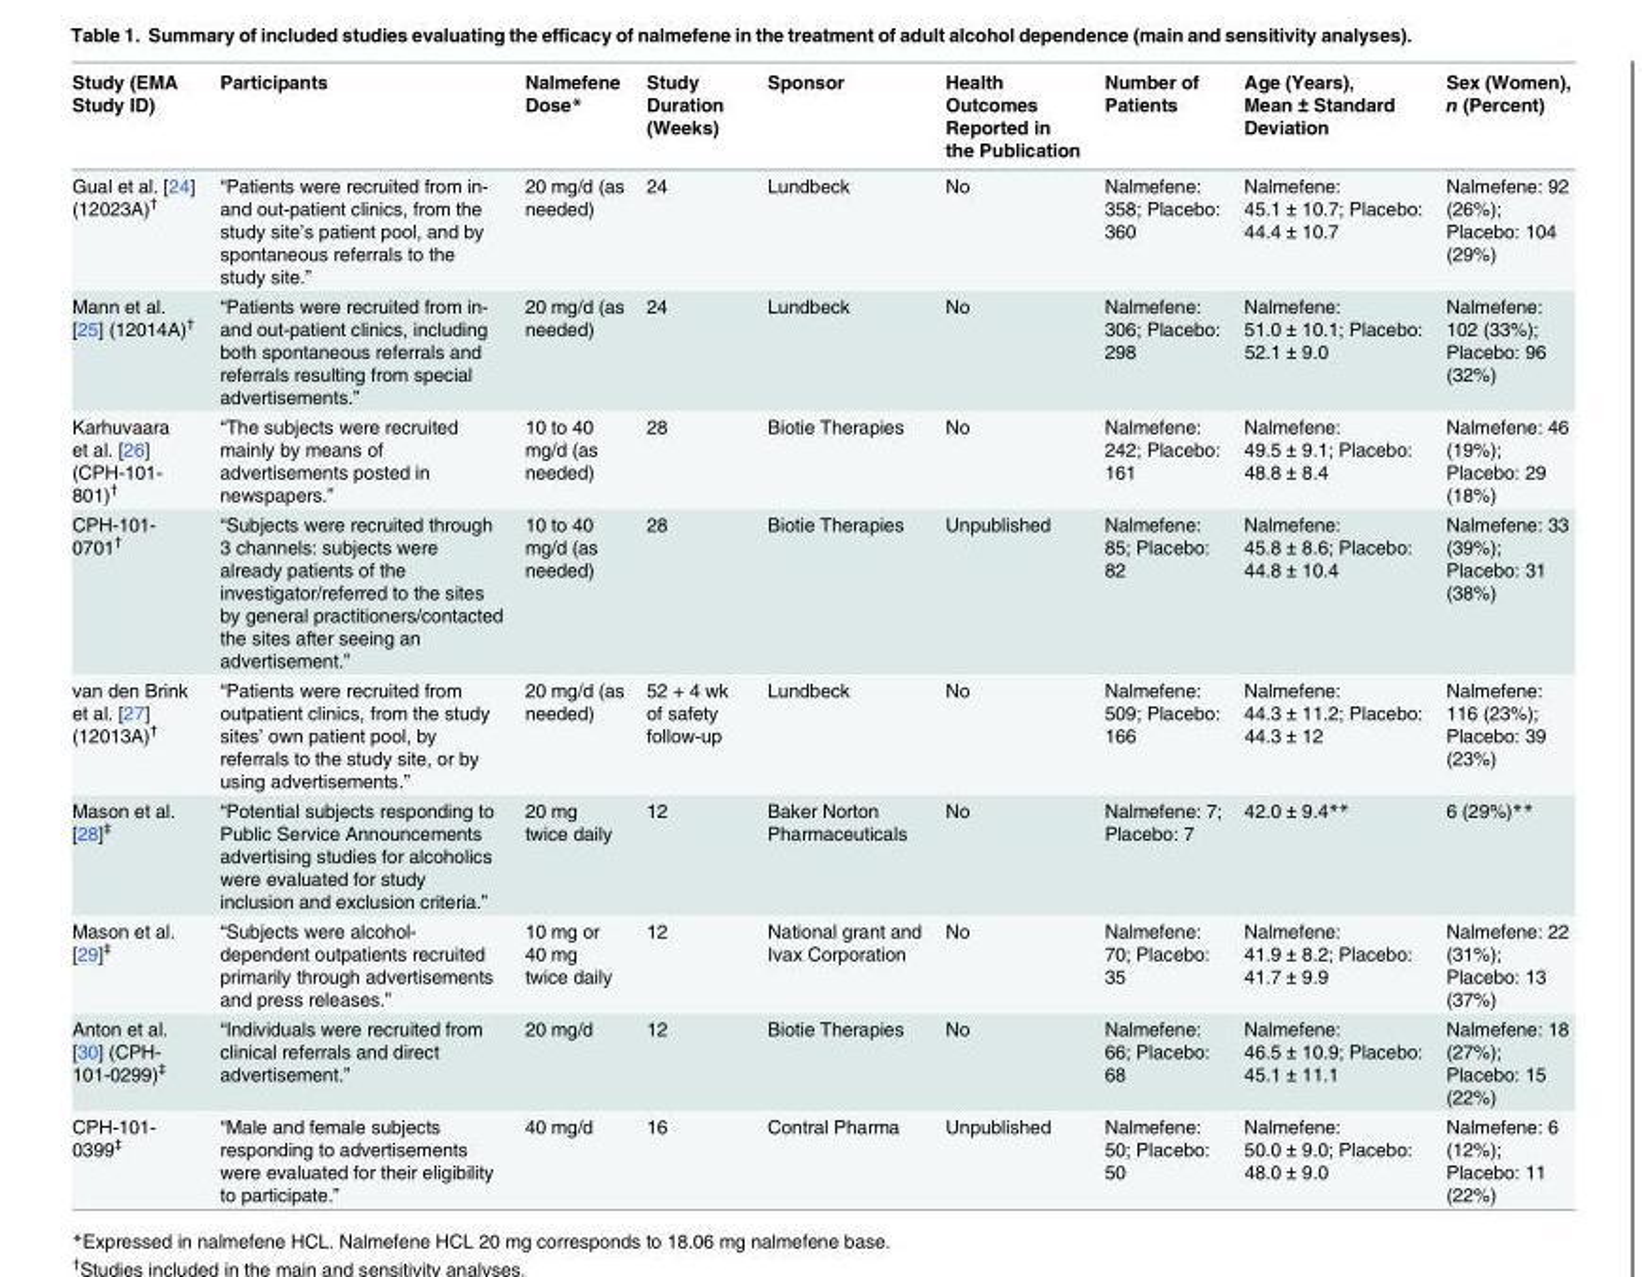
<table><thead><tr><td>Study (EMA Study ID)</td><td>Participants</td><td>Nalmefene Dose*</td><td>Study Duration (Weeks)</td><td>Sponsor</td><td>Health Outcomes Reported in the Publication</td><td>Number of Patients</td><td>Age (Years), Mean ± Standard Deviation</td><td>Sex (Women), n (Percent)</td></tr></thead><tbody><tr><td>Gual et al. [24] (12023A)<sup>†</sup></td><td>“Patients were recruited from in- and out-patient clinics, from the study site’s patient pool, and by spontaneous referrals to the study site.”</td><td>20 mg/d (as needed)</td><td>24</td><td>Lundbeck</td><td>No</td><td>Nalmefene: 358; Placebo: 360</td><td>Nalmefene: 45.1 ± 10.7; Placebo: 44.4 ± 10.7</td><td>Nalmefene: 92 (26%); Placebo: 104 (29%)</td></tr><tr><td>Mann et al. [25] (12014A)<sup>†</sup></td><td>“Patients were recruited from in- and out-patient clinics, including both spontaneous referrals and referrals resulting from special advertisements.”</td><td>20 mg/d (as needed)</td><td>24</td><td>Lundbeck</td><td>No</td><td>Nalmefene: 306; Placebo: 298</td><td>Nalmefene: 51.0 ± 10.1; Placebo: 52.1 ± 9.0</td><td>Nalmefene: 102 (33%); Placebo: 96 (32%)</td></tr><tr><td>Karhuvaara et al. [26] (CPH-101- 801)<sup>†</sup></td><td>“The subjects were recruited mainly by means of advertisements posted in newspapers.”</td><td>10 to 40 mg/d (as needed)</td><td>28</td><td>Biotie Therapies</td><td>No</td><td>Nalmefene: 242; Placebo: 161</td><td>Nalmefene: 49.5 ± 9.1; Placebo: 48.8 ± 8.4</td><td>Nalmefene: 46 (19%); Placebo: 29 (18%)</td></tr><tr><td>CPH-101- 0701<sup>†</sup></td><td>“Subjects were recruited through 3 channels: subjects were already patients of the investigator/referred to the sites by general practitioners/contacted the sites after seeing an advertisement.”</td><td>10 to 40 mg/d (as needed)</td><td>28</td><td>Biotie Therapies</td><td>Unpublished</td><td>Nalmefene: 85; Placebo: 82</td><td>Nalmefene: 45.8 ± 8.6; Placebo: 44.8 ± 10.4</td><td>Nalmefene: 33 (39%); Placebo: 31 (38%)</td></tr><tr><td>van den Brink et al. [27] (12013A)<sup>†</sup></td><td>“Patients were recruited from outpatient clinics, from the study sites’ own patient pool, by referrals to the study site, or by using advertisements.”</td><td>20 mg/d (as needed)</td><td>52 + 4 wk of safety follow-up</td><td>Lundbeck</td><td>No</td><td>Nalmefene: 509; Placebo: 166</td><td>Nalmefene: 44.3 ± 11.2; Placebo: 44.3 ± 12</td><td>Nalmefene: 116 (23%); Placebo: 39 (23%)</td></tr><tr><td>Mason et al. [28]<sup>‡</sup></td><td>“Potential subjects responding to Public Service Announcements advertising studies for alcoholics were evaluated for study inclusion and exclusion criteria.”</td><td>20 mg twice daily</td><td>12</td><td>Baker Norton Pharmaceuticals</td><td>No</td><td>Nalmefene: 7; Placebo: 7</td><td>42.0 ± 9.4**</td><td>6 (29%)**</td></tr><tr><td>Mason et al. [29]<sup>‡</sup></td><td>“Subjects were alcohol- dependent outpatients recruited primarily through advertisements and press releases.”</td><td>10 mg or 40 mg twice daily</td><td>12</td><td>National grant and Ivax Corporation</td><td>No</td><td>Nalmefene: 70; Placebo: 35</td><td>Nalmefene: 41.9 ± 8.2; Placebo: 41.7 ± 9.9</td><td>Nalmefene: 22 (31%); Placebo: 13 (37%)</td></tr><tr><td>Anton et al. [30] (CPH- 101-0299)<sup>‡</sup></td><td>“Individuals were recruited from clinical referrals and direct advertisement.”</td><td>20 mg/d</td><td>12</td><td>Biotie Therapies</td><td>No</td><td>Nalmefene: 66; Placebo: 68</td><td>Nalmefene: 46.5 ± 10.9; Placebo: 45.1 ± 11.1</td><td>Nalmefene: 18 (27%); Placebo: 15 (22%)</td></tr><tr><td>CPH-101- 0399<sup>‡</sup></td><td>“Male and female subjects responding to advertisements were evaluated for their eligibility to participate.”</td><td>40 mg/d</td><td>16</td><td>Contral Pharma</td><td>Unpublished</td><td>Nalmefene: 50; Placebo: 50</td><td>Nalmefene: 50.0 ± 9.0; Placebo: 48.0 ± 9.0</td><td>Nalmefene: 6 (12%); Placebo: 11 (22%)</td></tr></tbody></table>